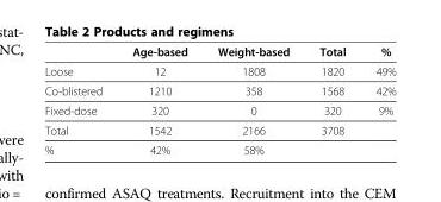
<table><thead><tr><td></td><td>Age-based</td><td>Weight-based</td><td>Total</td><td>%</td></tr></thead><tbody><tr><td>Loose</td><td>12</td><td>1808</td><td>1820</td><td>49%</td></tr><tr><td>Co-blistered</td><td>1210</td><td>358</td><td>1568</td><td>42%</td></tr><tr><td>Fixed-dose</td><td>320</td><td>0</td><td>320</td><td>9%</td></tr><tr><td>Total</td><td>1542</td><td>2166</td><td>3708</td><td></td></tr><tr><td>%</td><td>42%</td><td>58%</td><td></td><td></td></tr></tbody></table>